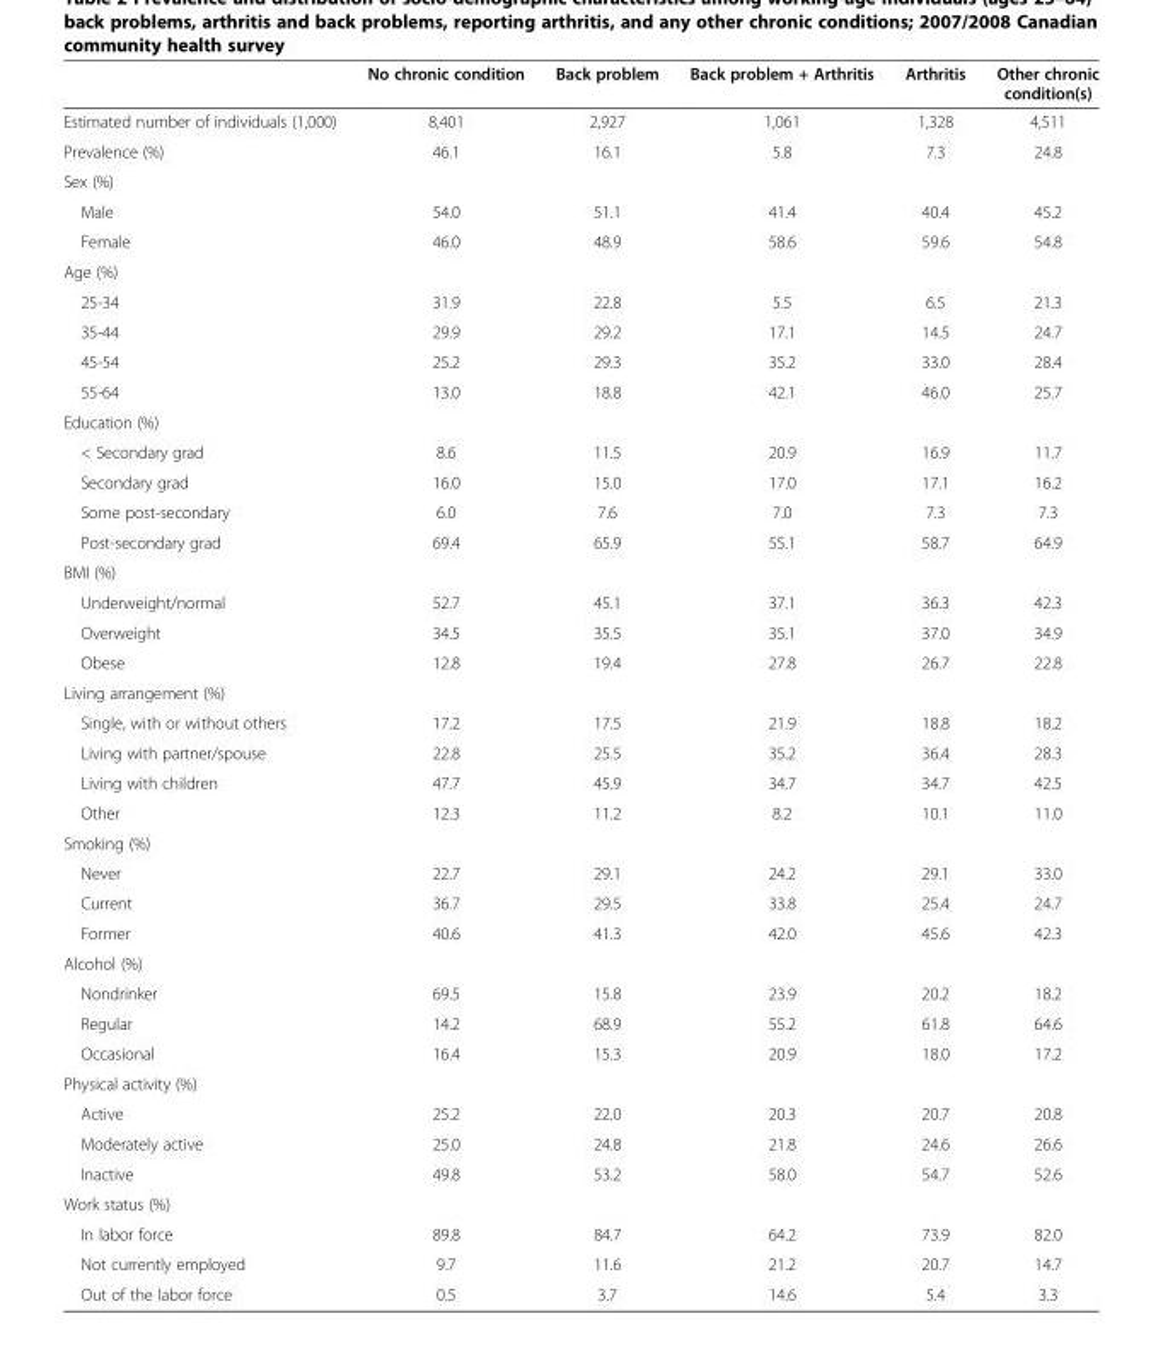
<table><thead><tr><td></td><td>No chronic condition</td><td>Back problem</td><td>Back problem + Arthritis</td><td>Arthritis</td><td>Other chronic condition(s)</td></tr></thead><tbody><tr><td>Estimated number of individuals (1,000)</td><td>8,401</td><td>2,927</td><td>1,061</td><td>1,328</td><td>4,511</td></tr><tr><td>Prevalence (%)</td><td>46.1</td><td>16.1</td><td>5.8</td><td>7.3</td><td>24.8</td></tr><tr><td colspan="6">Sex (%)</td></tr><tr><td>Male</td><td>54.0</td><td>51.1</td><td>41.4</td><td>40.4</td><td>45.2</td></tr><tr><td>Female</td><td>46.0</td><td>48.9</td><td>58.6</td><td>59.6</td><td>54.8</td></tr><tr><td colspan="6">Age (%)</td></tr><tr><td>25-34</td><td>31.9</td><td>22.8</td><td>5.5</td><td>6.5</td><td>21.3</td></tr><tr><td>35-44</td><td>29.9</td><td>29.2</td><td>17.1</td><td>14.5</td><td>24.7</td></tr><tr><td>45-54</td><td>25.2</td><td>29.3</td><td>35.2</td><td>33.0</td><td>28.4</td></tr><tr><td>55-64</td><td>13.0</td><td>18.8</td><td>42.1</td><td>46.0</td><td>25.7</td></tr><tr><td colspan="6">Education (%)</td></tr><tr><td>&lt; Secondary grad</td><td>8.6</td><td>11.5</td><td>20.9</td><td>16.9</td><td>11.7</td></tr><tr><td>Secondary grad</td><td>16.0</td><td>15.0</td><td>17.0</td><td>17.1</td><td>16.2</td></tr><tr><td>Some post-secondary</td><td>6.0</td><td>7.6</td><td>7.0</td><td>7.3</td><td>7.3</td></tr><tr><td>Post-secondary grad</td><td>69.4</td><td>65.9</td><td>55.1</td><td>58.7</td><td>64.9</td></tr><tr><td colspan="6">BMI (%)</td></tr><tr><td>Underweight/normal</td><td>52.7</td><td>45.1</td><td>37.1</td><td>36.3</td><td>42.3</td></tr><tr><td>Overweight</td><td>34.5</td><td>35.5</td><td>35.1</td><td>37.0</td><td>34.9</td></tr><tr><td>Obese</td><td>12.8</td><td>19.4</td><td>27.8</td><td>26.7</td><td>22.8</td></tr><tr><td colspan="6">Living arrangement (%)</td></tr><tr><td>Single, with or without others</td><td>17.2</td><td>17.5</td><td>21.9</td><td>18.8</td><td>18.2</td></tr><tr><td>Living with partner/spouse</td><td>22.8</td><td>25.5</td><td>35.2</td><td>36.4</td><td>28.3</td></tr><tr><td>Living with children</td><td>47.7</td><td>45.9</td><td>34.7</td><td>34.7</td><td>42.5</td></tr><tr><td>Other</td><td>12.3</td><td>11.2</td><td>8.2</td><td>10.1</td><td>11.0</td></tr><tr><td colspan="6">Smoking (%)</td></tr><tr><td>Never</td><td>22.7</td><td>29.1</td><td>24.2</td><td>29.1</td><td>33.0</td></tr><tr><td>Current</td><td>36.7</td><td>29.5</td><td>33.8</td><td>25.4</td><td>24.7</td></tr><tr><td>Former</td><td>40.6</td><td>41.3</td><td>42.0</td><td>45.6</td><td>42.3</td></tr><tr><td colspan="6">Alcohol (%)</td></tr><tr><td>Nondrinker</td><td>69.5</td><td>15.8</td><td>23.9</td><td>20.2</td><td>18.2</td></tr><tr><td>Regular</td><td>14.2</td><td>68.9</td><td>55.2</td><td>61.8</td><td>64.6</td></tr><tr><td>Occasional</td><td>16.4</td><td>15.3</td><td>20.9</td><td>18.0</td><td>17.2</td></tr><tr><td colspan="6">Physical activity (%)</td></tr><tr><td>Active</td><td>25.2</td><td>22.0</td><td>20.3</td><td>20.7</td><td>20.8</td></tr><tr><td>Moderately active</td><td>25.0</td><td>24.8</td><td>21.8</td><td>24.6</td><td>26.6</td></tr><tr><td>Inactive</td><td>49.8</td><td>53.2</td><td>58.0</td><td>54.7</td><td>52.6</td></tr><tr><td colspan="6">Work status (%)</td></tr><tr><td>In labor force</td><td>89.8</td><td>84.7</td><td>64.2</td><td>73.9</td><td>82.0</td></tr><tr><td>Not currently employed</td><td>9.7</td><td>11.6</td><td>21.2</td><td>20.7</td><td>14.7</td></tr><tr><td>Out of the labor force</td><td>0.5</td><td>3.7</td><td>14.6</td><td>5.4</td><td>3.3</td></tr></tbody></table>